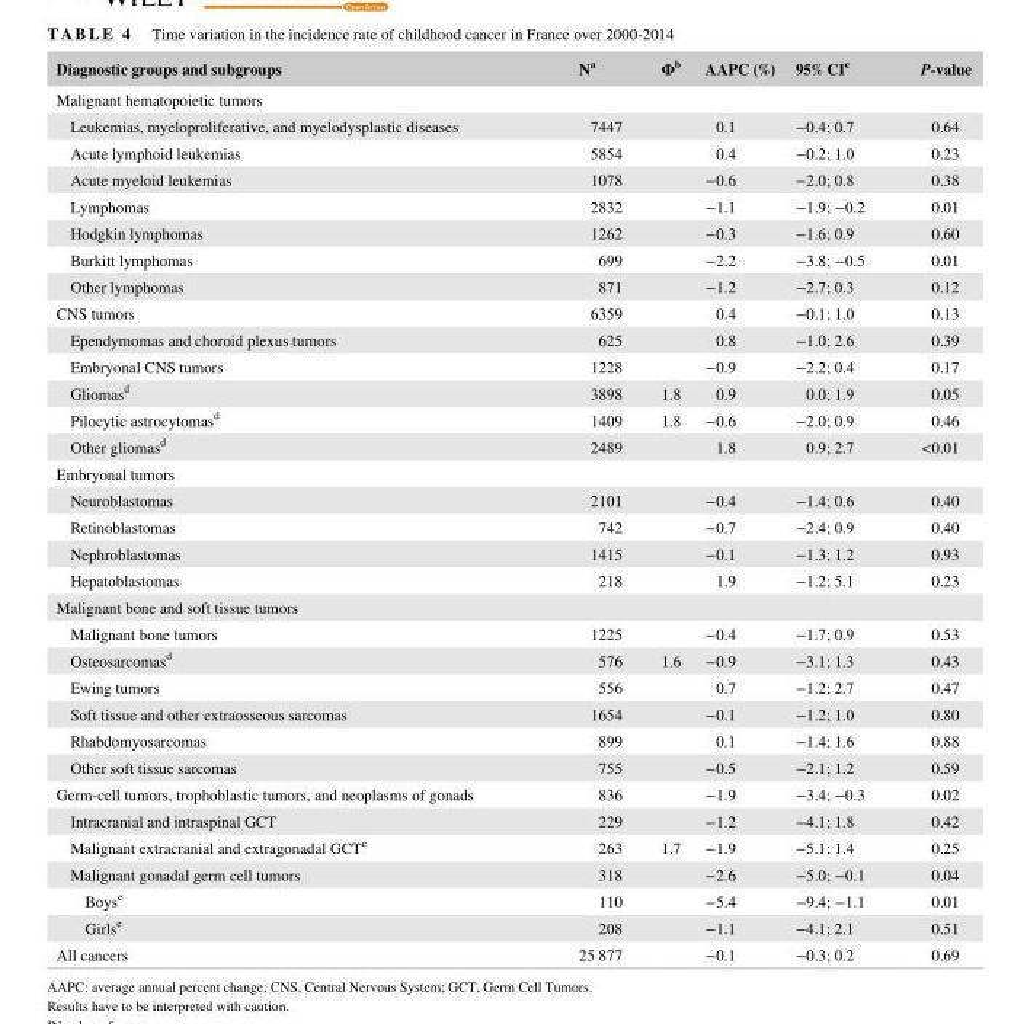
<table><thead><tr><td>Diagnostic groups and subgroups</td><td>N<sup>a</sup></td><td>Φ<sup>b</sup></td><td>AAPC (%)</td><td>95% CI<sup>c</sup></td><td>P- value</td></tr></thead><tbody><tr><td colspan="6">Malignant hematopoietic tumors</td></tr><tr><td>Leukemias, myeloproliferative, and myelodysplastic diseases</td><td>7447</td><td></td><td>0.1</td><td>−0.4; 0.7</td><td>0.64</td></tr><tr><td>Acute lymphoid leukemias</td><td>5854</td><td></td><td>0.4</td><td>−0.2; 1.0</td><td>0.23</td></tr><tr><td>Acute myeloid leukemias</td><td>1078</td><td></td><td>−0.6</td><td>−2.0; 0.8</td><td>0.38</td></tr><tr><td>Lymphomas</td><td>2832</td><td></td><td>−1.1</td><td>−1.9; −0.2</td><td>0.01</td></tr><tr><td>Hodgkin lymphomas</td><td>1262</td><td></td><td>−0.3</td><td>−1.6; 0.9</td><td>0.60</td></tr><tr><td>Burkitt lymphomas</td><td>699</td><td></td><td>−2.2</td><td>−3.8; −0.5</td><td>0.01</td></tr><tr><td>Other lymphomas</td><td>871</td><td></td><td>−1.2</td><td>−2.7; 0.3</td><td>0.12</td></tr><tr><td>CNS tumors</td><td>6359</td><td></td><td>0.4</td><td>−0.1; 1.0</td><td>0.13</td></tr><tr><td>Ependymomas and choroid plexus tumors</td><td>625</td><td></td><td>0.8</td><td>−1.0; 2.6</td><td>0.39</td></tr><tr><td>Embryonal CNS tumors</td><td>1228</td><td></td><td>−0.9</td><td>−2.2; 0.4</td><td>0.17</td></tr><tr><td>Gliomas<sup>d</sup></td><td>3898</td><td>1.8</td><td>0.9</td><td>0.0; 1.9</td><td>0.05</td></tr><tr><td>Pilocytic astrocytomas<sup>d</sup></td><td>1409</td><td>1.8</td><td>−0.6</td><td>−2.0; 0.9</td><td>0.46</td></tr><tr><td>Other gliomas<sup>d</sup></td><td>2489</td><td></td><td>1.8</td><td>0.9; 2.7</td><td>&lt;0.01</td></tr><tr><td colspan="6">Embryonal tumors</td></tr><tr><td>Neuroblastomas</td><td>2101</td><td></td><td>−0.4</td><td>−1.4; 0.6</td><td>0.40</td></tr><tr><td>Retinoblastomas</td><td>742</td><td></td><td>−0.7</td><td>−2.4; 0.9</td><td>0.40</td></tr><tr><td>Nephroblastomas</td><td>1415</td><td></td><td>−0.1</td><td>−1.3; 1.2</td><td>0.93</td></tr><tr><td>Hepatoblastomas</td><td>218</td><td></td><td>1.9</td><td>−1.2; 5.1</td><td>0.23</td></tr><tr><td colspan="6">Malignant bone and soft tissue tumors</td></tr><tr><td>Malignant bone tumors</td><td>1225</td><td></td><td>−0.4</td><td>−1.7; 0.9</td><td>0.53</td></tr><tr><td>Osteosarcomas<sup>d</sup></td><td>576</td><td>1.6</td><td>−0.9</td><td>−3.1; 1.3</td><td>0.43</td></tr><tr><td>Ewing tumors</td><td>556</td><td></td><td>0.7</td><td>−1.2; 2.7</td><td>0.47</td></tr><tr><td>Soft tissue and other extraosseous sarcomas</td><td>1654</td><td></td><td>−0.1</td><td>−1.2; 1.0</td><td>0.80</td></tr><tr><td>Rhabdomyosarcomas</td><td>899</td><td></td><td>0.1</td><td>−1.4; 1.6</td><td>0.88</td></tr><tr><td>Other soft tissue sarcomas</td><td>755</td><td></td><td>−0.5</td><td>−2.1; 1.2</td><td>0.59</td></tr><tr><td>Germ- cell tumors, trophoblastic tumors, and neoplasms of gonads</td><td>836</td><td></td><td>−1.9</td><td>−3.4; −0.3</td><td>0.02</td></tr><tr><td>Intracranial and intraspinal GCT</td><td>229</td><td></td><td>−1.2</td><td>−4.1; 1.8</td><td>0.42</td></tr><tr><td>Malignant extracranial and extragonadal GCT<sup>e</sup></td><td>263</td><td>1.7</td><td>−1.9</td><td>−5.1; 1.4</td><td>0.25</td></tr><tr><td>Malignant gonadal germ cell tumors</td><td>318</td><td></td><td>−2.6</td><td>−5.0; −0.1</td><td>0.04</td></tr><tr><td>Boys<sup>e</sup></td><td>110</td><td></td><td>−5.4</td><td>−9.4; −1.1</td><td>0.01</td></tr><tr><td>Girls<sup>e</sup></td><td>208</td><td></td><td>−1.1</td><td>−4.1; 2.1</td><td>0.51</td></tr><tr><td>All cancers</td><td>25 877</td><td></td><td>−0.1</td><td>−0.3; 0.2</td><td>0.69</td></tr></tbody></table>